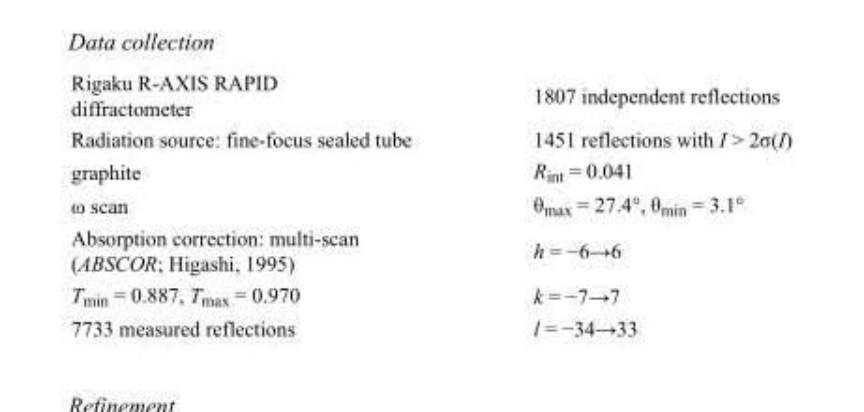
<table><tbody><tr><td>Rigaku R-AXIS RAPID diffractometer</td><td>1807 independent reflections</td></tr><tr><td>Radiation source: fine-focus sealed tube</td><td>1451 reflections with I &gt; 2σ(I)</td></tr><tr><td>graphite</td><td>R<sub>int</sub> = 0.041</td></tr><tr><td>ω scan</td><td>θ<sub>max</sub> = 27.4°, θ<sub>min</sub> = 3.1°</td></tr><tr><td>Absorption correction: multi-scan (ABSCOR; Higashi, 1995)</td><td>h = −6→6</td></tr><tr><td>T<sub>min</sub> = 0.887, T<sub>max</sub> = 0.970</td><td>k = −7→7</td></tr><tr><td>7733 measured reflections</td><td>l = −34→33</td></tr></tbody></table>